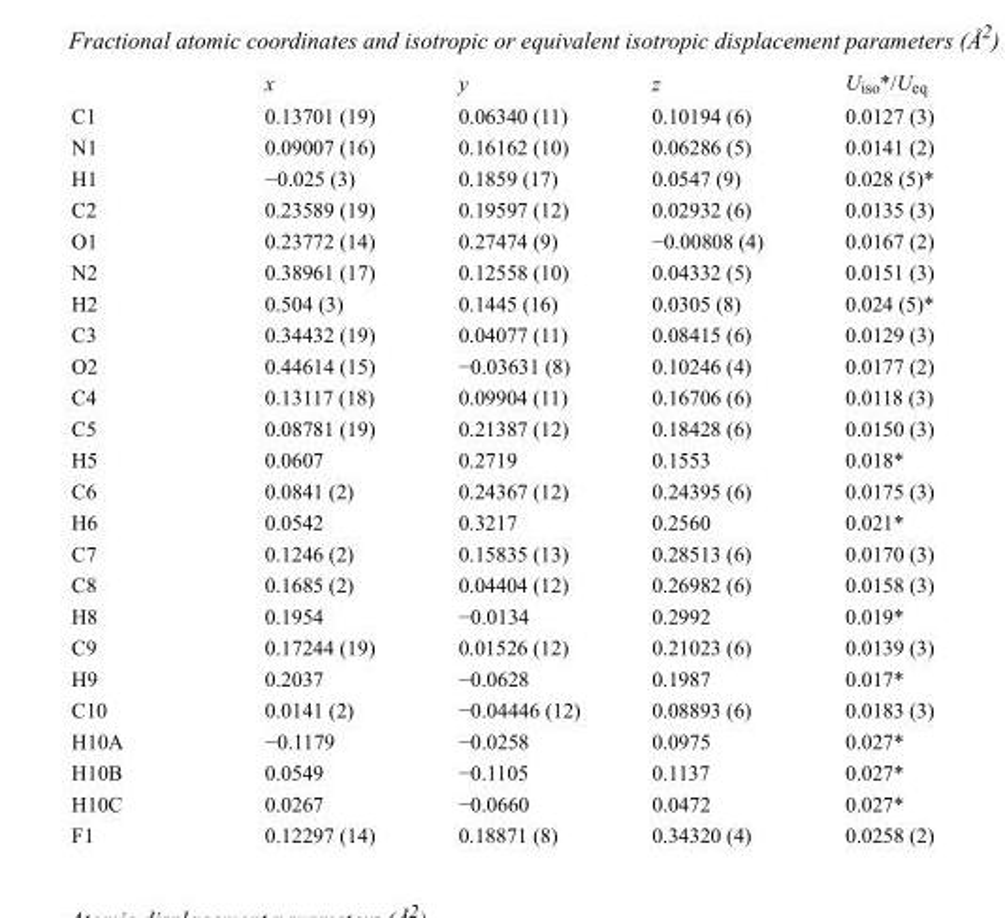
<table><thead><tr><td></td><td>x</td><td>y</td><td>z</td><td>U<sub>iso</sub>*/U<sub>eq</sub></td></tr></thead><tbody><tr><td>C1</td><td>0.13701 (19)</td><td>0.06340 (11)</td><td>0.10194 (6)</td><td>0.0127 (3)</td></tr><tr><td>N1</td><td>0.09007 (16)</td><td>0.16162 (10)</td><td>0.06286 (5)</td><td>0.0141 (2)</td></tr><tr><td>H1</td><td>−0.025 (3)</td><td>0.1859 (17)</td><td>0.0547 (9)</td><td>0.028 (5)*</td></tr><tr><td>C2</td><td>0.23589 (19)</td><td>0.19597 (12)</td><td>0.02932 (6)</td><td>0.0135 (3)</td></tr><tr><td>O1</td><td>0.23772 (14)</td><td>0.27474 (9)</td><td>−0.00808 (4)</td><td>0.0167 (2)</td></tr><tr><td>N2</td><td>0.38961 (17)</td><td>0.12558 (10)</td><td>0.04332 (5)</td><td>0.0151 (3)</td></tr><tr><td>H2</td><td>0.504 (3)</td><td>0.1445 (16)</td><td>0.0305 (8)</td><td>0.024 (5)*</td></tr><tr><td>C3</td><td>0.34432 (19)</td><td>0.04077 (11)</td><td>0.08415 (6)</td><td>0.0129 (3)</td></tr><tr><td>O2</td><td>0.44614 (15)</td><td>−0.03631 (8)</td><td>0.10246 (4)</td><td>0.0177 (2)</td></tr><tr><td>C4</td><td>0.13117 (18)</td><td>0.09904 (11)</td><td>0.16706 (6)</td><td>0.0118 (3)</td></tr><tr><td>C5</td><td>0.08781 (19)</td><td>0.21387 (12)</td><td>0.18428 (6)</td><td>0.0150 (3)</td></tr><tr><td>H5</td><td>0.0607</td><td>0.2719</td><td>0.1553</td><td>0.018*</td></tr><tr><td>C6</td><td>0.0841 (2)</td><td>0.24367 (12)</td><td>0.24395 (6)</td><td>0.0175 (3)</td></tr><tr><td>H6</td><td>0.0542</td><td>0.3217</td><td>0.2560</td><td>0.021*</td></tr><tr><td>C7</td><td>0.1246 (2)</td><td>0.15835 (13)</td><td>0.28513 (6)</td><td>0.0170 (3)</td></tr><tr><td>C8</td><td>0.1685 (2)</td><td>0.04404 (12)</td><td>0.26982 (6)</td><td>0.0158 (3)</td></tr><tr><td>H8</td><td>0.1954</td><td>−0.0134</td><td>0.2992</td><td>0.019*</td></tr><tr><td>C9</td><td>0.17244 (19)</td><td>0.01526 (12)</td><td>0.21023 (6)</td><td>0.0139 (3)</td></tr><tr><td>H9</td><td>0.2037</td><td>−0.0628</td><td>0.1987</td><td>0.017*</td></tr><tr><td>C10</td><td>0.0141 (2)</td><td>−0.04446 (12)</td><td>0.08893 (6)</td><td>0.0183 (3)</td></tr><tr><td>H10A</td><td>−0.1179</td><td>−0.0258</td><td>0.0975</td><td>0.027*</td></tr><tr><td>H10B</td><td>0.0549</td><td>−0.1105</td><td>0.1137</td><td>0.027*</td></tr><tr><td>H10C</td><td>0.0267</td><td>−0.0660</td><td>0.0472</td><td>0.027*</td></tr><tr><td>F1</td><td>0.12297 (14)</td><td>0.18871 (8)</td><td>0.34320 (4)</td><td>0.0258 (2)</td></tr></tbody></table>